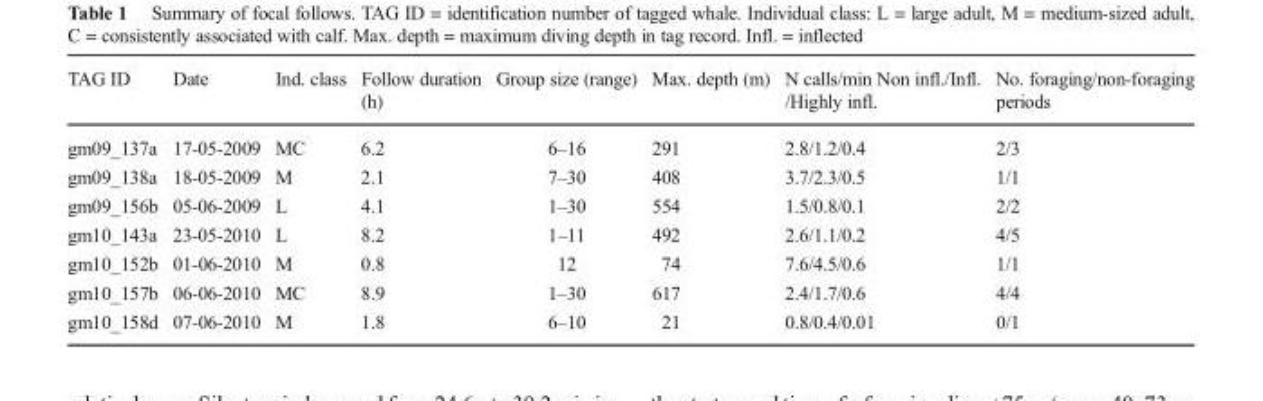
<table><thead><tr><td>TAG ID</td><td>Date</td><td>Ind. class</td><td>Follow duration (h)</td><td>Group size (range)</td><td>Max. depth (m)</td><td>N calls/min Non infl./Infl. /Highly infl.</td><td>No. foraging/non-foraging periods</td></tr></thead><tbody><tr><td>gm09_137a</td><td>17-05-2009</td><td>MC</td><td>6.2</td><td>6–16</td><td>291</td><td>2.8/1.2/0.4</td><td>2/3</td></tr><tr><td>gm09_138a</td><td>18-05-2009</td><td>M</td><td>2.1</td><td>7–30</td><td>408</td><td>3.7/2.3/0.5</td><td>1/1</td></tr><tr><td>gm09_156b</td><td>05-06-2009</td><td>L</td><td>4.1</td><td>1–30</td><td>554</td><td>1.5/0.8/0.1</td><td>2/2</td></tr><tr><td>gm10_143a</td><td>23-05-2010</td><td>L</td><td>8.2</td><td>1–11</td><td>492</td><td>2.6/1.1/0.2</td><td>4/5</td></tr><tr><td>gm10_152b</td><td>01-06-2010</td><td>M</td><td>0.8</td><td>12</td><td>74</td><td>7.6/4.5/0.6</td><td>1/1</td></tr><tr><td>gm10_157b</td><td>06-06-2010</td><td>MC</td><td>8.9</td><td>1–30</td><td>617</td><td>2.4/1.7/0.6</td><td>4/4</td></tr><tr><td>gm10_158d</td><td>07-06-2010</td><td>M</td><td>1.8</td><td>6–10</td><td>21</td><td>0.8/0.4/0.01</td><td>0/1</td></tr></tbody></table>